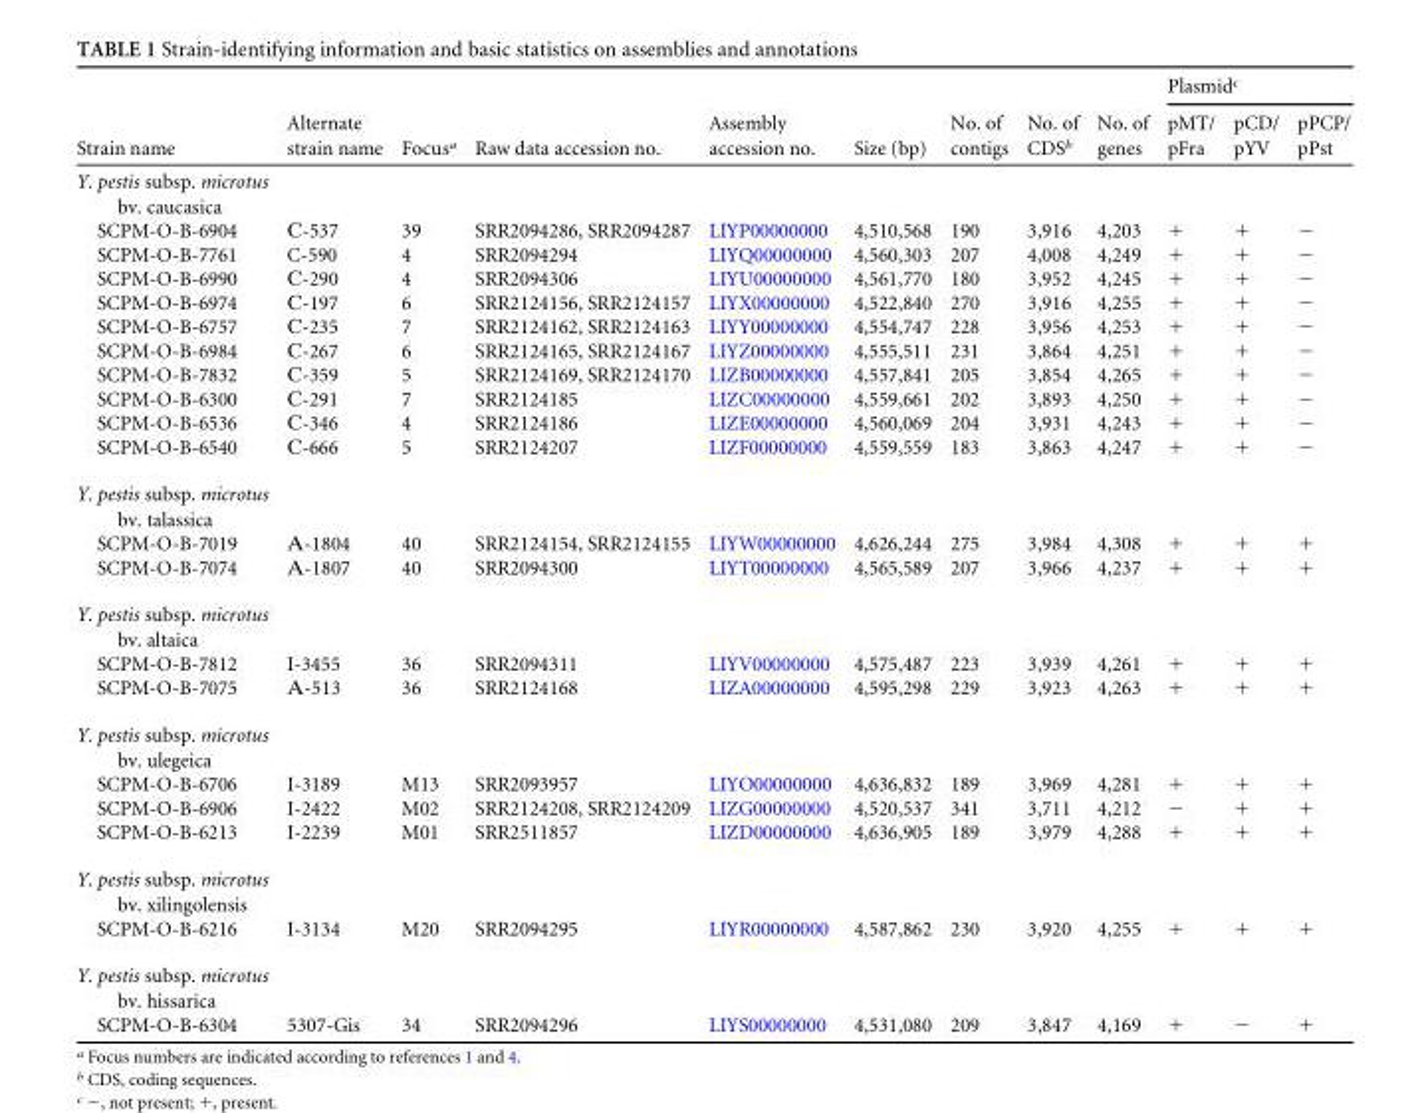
<table><thead><tr><td rowspan="2">Strain name</td><td rowspan="2">Alternate strain name</td><td rowspan="2">Focus<sup>a</sup></td><td rowspan="2">Raw data accession no.</td><td rowspan="2">Assembly accession no.</td><td rowspan="2">Size (bp)</td><td rowspan="2">No. of contigs</td><td rowspan="2">No. of CDS<sup>b</sup></td><td rowspan="2">No. of genes</td><td colspan="3">Plasmid<sup>c</sup></td></tr><tr><td>pMT/ pFra</td><td>pCD/ pYV</td><td>pPCP/ pPst</td></tr></thead><tbody><tr><td colspan="12">Y. pestis subsp. microtus bv. caucasica</td></tr><tr><td>SCPM-O-B-6904</td><td>С-537</td><td>39</td><td>SRR2094286, SRR2094287</td><td>LIYP00000000</td><td>4,510,568</td><td>190</td><td>3,916</td><td>4,203</td><td>+</td><td>+</td><td>−</td></tr><tr><td>SCPM-O-B-7761</td><td>C-590</td><td>4</td><td>SRR2094294</td><td>LIYQ00000000</td><td>4,560,303</td><td>207</td><td>4,008</td><td>4,249</td><td>+</td><td>+</td><td>−</td></tr><tr><td>SCPM-O-B-6990</td><td>С-290</td><td>4</td><td>SRR2094306</td><td>LIYU00000000</td><td>4,561,770</td><td>180</td><td>3,952</td><td>4,245</td><td>+</td><td>+</td><td>−</td></tr><tr><td>SCPM-O-B-6974</td><td>С-197</td><td>6</td><td>SRR2124156, SRR2124157</td><td>LIYX00000000</td><td>4,522,840</td><td>270</td><td>3,916</td><td>4,255</td><td>+</td><td>+</td><td>−</td></tr><tr><td>SCPM-O-B-6757</td><td>С-235</td><td>7</td><td>SRR2124162, SRR2124163</td><td>LIYY00000000</td><td>4,554,747</td><td>228</td><td>3,956</td><td>4,253</td><td>+</td><td>+</td><td>−</td></tr><tr><td>SCPM-O-B-6984</td><td>С-267</td><td>6</td><td>SRR2124165, SRR2124167</td><td>LIYZ00000000</td><td>4,555,511</td><td>231</td><td>3,864</td><td>4,251</td><td>+</td><td>+</td><td>−</td></tr><tr><td>SCPM-O-B-7832</td><td>С-359</td><td>5</td><td>SRR2124169, SRR2124170</td><td>LIZB00000000</td><td>4,557,841</td><td>205</td><td>3,854</td><td>4,265</td><td>+</td><td>+</td><td>−</td></tr><tr><td>SCPM-O-B-6300</td><td>С-291</td><td>7</td><td>SRR2124185</td><td>LIZC00000000</td><td>4,559,661</td><td>202</td><td>3,893</td><td>4,250</td><td>+</td><td>+</td><td>−</td></tr><tr><td>SCPM-O-B-6536</td><td>С-346</td><td>4</td><td>SRR2124186</td><td>LIZE00000000</td><td>4,560,069</td><td>204</td><td>3,931</td><td>4,243</td><td>+</td><td>+</td><td>−</td></tr><tr><td>SCPM-O-B-6540</td><td>С-666</td><td>5</td><td>SRR2124207</td><td>LIZF00000000</td><td>4,559,559</td><td>183</td><td>3,863</td><td>4,247</td><td>+</td><td>+</td><td>−</td></tr><tr><td colspan="12">Y. pestis subsp. microtus bv. talassica</td></tr><tr><td>SCPM-O-B-7019</td><td>А-1804</td><td>40</td><td>SRR2124154, SRR2124155</td><td>LIYW00000000</td><td>4,626,244</td><td>275</td><td>3,984</td><td>4,308</td><td>+</td><td>+</td><td>+</td></tr><tr><td>SCPM-O-B-7074</td><td>А-1807</td><td>40</td><td>SRR2094300</td><td>LIYT00000000</td><td>4,565,589</td><td>207</td><td>3,966</td><td>4,237</td><td>+</td><td>+</td><td>+</td></tr><tr><td colspan="12">Y. pestis subsp. microtus bv. altaica</td></tr><tr><td>SCPM-O-B-7812</td><td>I-3455</td><td>36</td><td>SRR2094311</td><td>LIYV00000000</td><td>4,575,487</td><td>223</td><td>3,939</td><td>4,261</td><td>+</td><td>+</td><td>+</td></tr><tr><td>SCPM-O-B-7075</td><td>А-513</td><td>36</td><td>SRR2124168</td><td>LIZA00000000</td><td>4,595,298</td><td>229</td><td>3,923</td><td>4,263</td><td>+</td><td>+</td><td>+</td></tr><tr><td colspan="12">Y. pestis subsp. microtus bv. ulegeica</td></tr><tr><td>SCPM-O-B-6706</td><td>I-3189</td><td>M13</td><td>SRR2093957</td><td>LIYO00000000</td><td>4,636,832</td><td>189</td><td>3,969</td><td>4,281</td><td>+</td><td>+</td><td>+</td></tr><tr><td>SCPM-O-B-6906</td><td>I-2422</td><td>M02</td><td>SRR2124208, SRR2124209</td><td>LIZG00000000</td><td>4,520,537</td><td>341</td><td>3,711</td><td>4,212</td><td>−</td><td>+</td><td>+</td></tr><tr><td>SCPM-O-B-6213</td><td>I-2239</td><td>M01</td><td>SRR2511857</td><td>LIZD00000000</td><td>4,636,905</td><td>189</td><td>3,979</td><td>4,288</td><td>+</td><td>+</td><td>+</td></tr><tr><td colspan="12">Y. pestis subsp. microtus bv. xilingolensis</td></tr><tr><td>SCPM-O-B-6216</td><td>I-3134</td><td>M20</td><td>SRR2094295</td><td>LIYR00000000</td><td>4,587,862</td><td>230</td><td>3,920</td><td>4,255</td><td>+</td><td>+</td><td>+</td></tr><tr><td colspan="12">Y. pestis subsp. microtus bv. hissarica</td></tr><tr><td>SCPM-O-B-6304</td><td>5307-Gis</td><td>34</td><td>SRR2094296</td><td>LIYS00000000</td><td>4,531,080</td><td>209</td><td>3,847</td><td>4,169</td><td>+</td><td>−</td><td>+</td></tr></tbody></table>